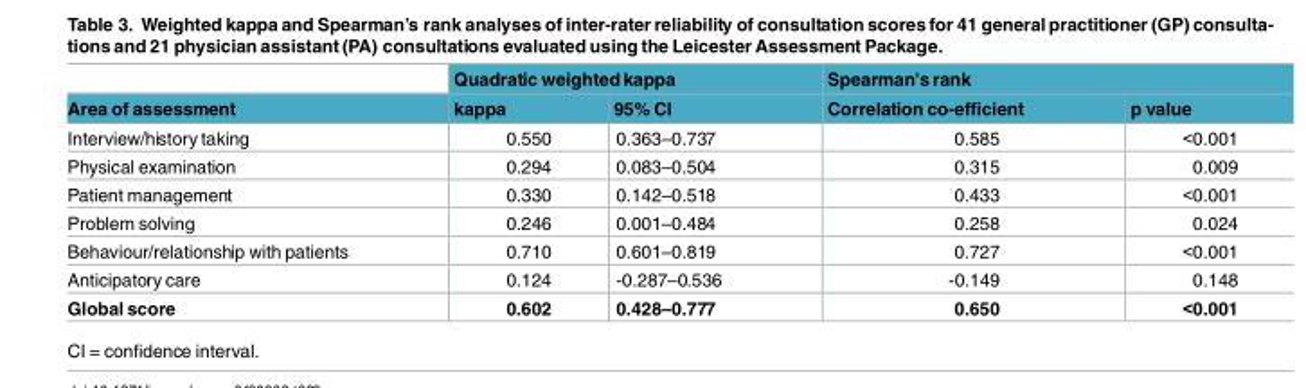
<table><thead><tr><td rowspan="2">Area of assessment</td><td colspan="2">Quadratic weighted kappa</td><td colspan="2">Spearman&#x27;s rank</td></tr><tr><td>kappa</td><td>95% CI</td><td>Correlation co-efficient</td><td>p value</td></tr></thead><tbody><tr><td>Interview/history taking</td><td>0.550</td><td>0.363–0.737</td><td>0.585</td><td>&lt;0.001</td></tr><tr><td>Physical examination</td><td>0.294</td><td>0.083–0.504</td><td>0.315</td><td>0.009</td></tr><tr><td>Patient management</td><td>0.330</td><td>0.142–0.518</td><td>0.433</td><td>&lt;0.001</td></tr><tr><td>Problem solving</td><td>0.246</td><td>0.001–0.484</td><td>0.258</td><td>0.024</td></tr><tr><td>Behaviour/relationship with patients</td><td>0.710</td><td>0.601–0.819</td><td>0.727</td><td>&lt;0.001</td></tr><tr><td>Anticipatory care</td><td>0.124</td><td>-0.287–0.536</td><td>-0.149</td><td>0.148</td></tr><tr><td>Global score</td><td>0.602</td><td>0.428–0.777</td><td>0.650</td><td>&lt;0.001</td></tr></tbody></table>